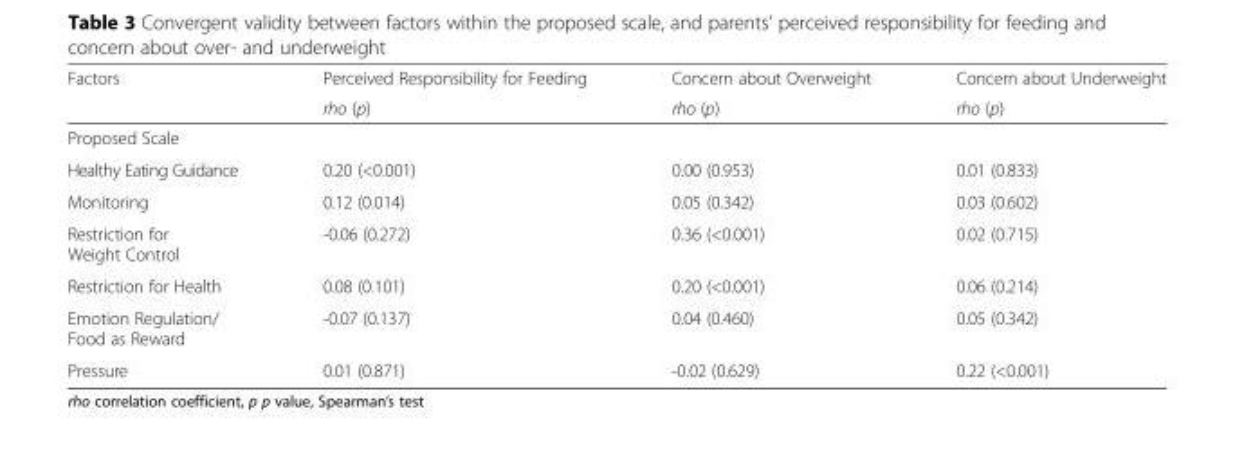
<table><thead><tr><td rowspan="2">Factors</td><td rowspan="2">Perceived Responsibility for Feeding rho (p)</td><td rowspan="2">Concern about Overweight rho (p)</td><td rowspan="2">Concern about Underweight rho (p)</td></tr><tr></tr></thead><tbody><tr><td colspan="4">Proposed Scale</td></tr><tr><td>Healthy Eating Guidance</td><td>0.20 (&lt;0.001)</td><td>0.00 (0.953)</td><td>0.01 (0.833)</td></tr><tr><td>Monitoring</td><td>0.12 (0.014)</td><td>0.05 (0.342)</td><td>0.03 (0.602)</td></tr><tr><td>Restriction for Weight Control</td><td>-0.06 (0.272)</td><td>0.36 (&lt;0.001)</td><td>0.02 (0.715)</td></tr><tr><td>Restriction for Health</td><td>0.08 (0.101)</td><td>0.20 (&lt;0.001)</td><td>0.06 (0.214)</td></tr><tr><td>Emotion Regulation/ Food as Reward</td><td>-0.07 (0.137)</td><td>0.04 (0.460)</td><td>0.05 (0.342)</td></tr><tr><td>Pressure</td><td>0.01 (0.871)</td><td>-0.02 (0.629)</td><td>0.22 (&lt;0.001)</td></tr></tbody></table>